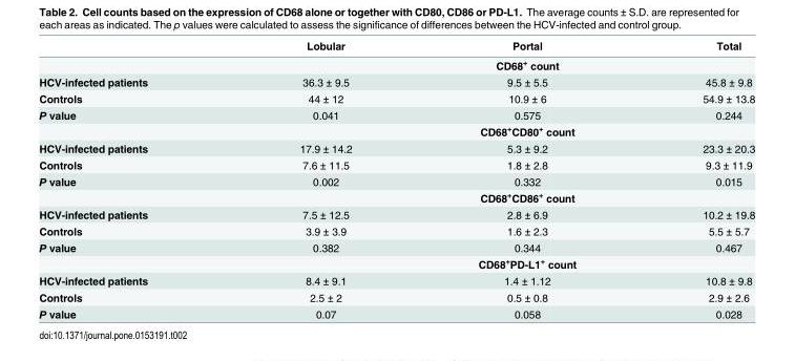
<table><thead><tr><td></td><td>Lobular</td><td>Portal</td><td>Total</td></tr></thead><tbody><tr><td></td><td colspan="3">CD68<sup>+</sup> count</td></tr><tr><td>HCV-infected patients</td><td>36.3 ± 9.5</td><td>9.5 ± 5.5</td><td>45.8 ± 9.8</td></tr><tr><td>Controls</td><td>44 ± 12</td><td>10.9 ± 6</td><td>54.9 ± 13.8</td></tr><tr><td rowspan="2">P value</td><td>0.041</td><td>0.575</td><td>0.244</td></tr><tr><td colspan="3">CD68<sup>+</sup>CD80<sup>+</sup> count</td></tr><tr><td>HCV-infected patients</td><td>17.9 ± 14.2</td><td>5.3 ± 9.2</td><td>23.3 ± 20.3</td></tr><tr><td>Controls</td><td>7.6 ± 11.5</td><td>1.8 ± 2.8</td><td>9.3 ± 11.9</td></tr><tr><td rowspan="2">P value</td><td>0.002</td><td>0.332</td><td>0.015</td></tr><tr><td colspan="3">CD68<sup>+</sup>CD86<sup>+</sup> count</td></tr><tr><td>HCV-infected patients</td><td>7.5 ± 12.5</td><td>2.8 ± 6.9</td><td>10.2 ± 19.8</td></tr><tr><td>Controls</td><td>3.9 ± 3.9</td><td>1.6 ± 2.3</td><td>5.5 ± 5.7</td></tr><tr><td rowspan="2">P value</td><td>0.382</td><td>0.344</td><td>0.467</td></tr><tr><td colspan="3">CD68<sup>+</sup>PD-L1<sup>+</sup> count</td></tr><tr><td>HCV-infected patients</td><td>8.4 ± 9.1</td><td>1.4 ± 1.12</td><td>10.8 ± 9.8</td></tr><tr><td>Controls</td><td>2.5 ± 2</td><td>0.5 ± 0.8</td><td>2.9 ± 2.6</td></tr><tr><td>P value</td><td>0.07</td><td>0.058</td><td>0.028</td></tr></tbody></table>